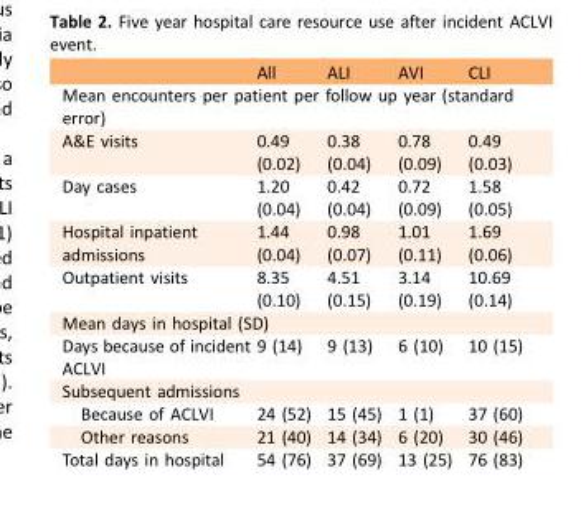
<table><thead><tr><td></td><td>All</td><td>ALI</td><td>AVI</td><td>CLI</td></tr></thead><tbody><tr><td colspan="5">Mean encounters per patient per follow up year (standard error)</td></tr><tr><td>A&amp;E visits</td><td>0.49 (0.02)</td><td>0.38 (0.04)</td><td>0.78 (0.09)</td><td>0.49 (0.03)</td></tr><tr><td>Day cases</td><td>1.20 (0.04)</td><td>0.42 (0.04)</td><td>0.72 (0.09)</td><td>1.58 (0.05)</td></tr><tr><td>Hospital inpatient admissions</td><td>1.44 (0.04)</td><td>0.98 (0.07)</td><td>1.01 (0.11)</td><td>1.69 (0.06)</td></tr><tr><td>Outpatient visits</td><td>8.35 (0.10)</td><td>4.51 (0.15)</td><td>3.14 (0.19)</td><td>10.69 (0.14)</td></tr><tr><td colspan="5">Mean days in hospital (SD)</td></tr><tr><td>Days because of incident ACLVI</td><td>9 (14)</td><td>9 (13)</td><td>6 (10)</td><td>10 (15)</td></tr><tr><td colspan="5">Subsequent admissions</td></tr><tr><td>Because of ACLVI</td><td>24 (52)</td><td>15 (45)</td><td>1 (1)</td><td>37 (60)</td></tr><tr><td>Other reasons</td><td>21 (40)</td><td>14 (34)</td><td>6 (20)</td><td>30 (46)</td></tr><tr><td>Total days in hospital</td><td>54 (76)</td><td>37 (69)</td><td>13 (25)</td><td>76 (83)</td></tr></tbody></table>